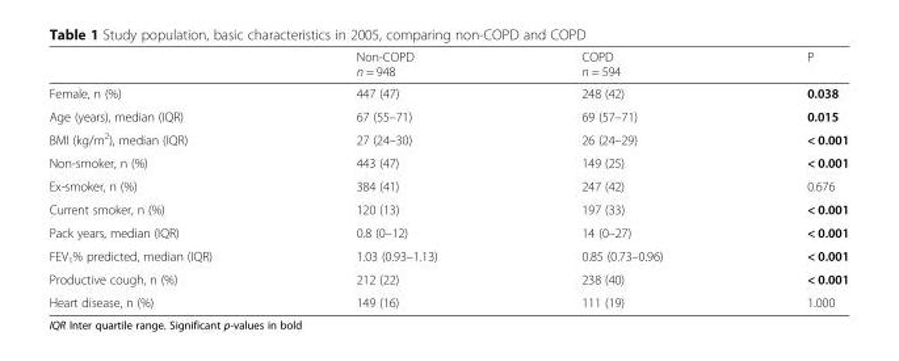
<table><thead><tr><td></td><td>Non-COPD n = 948</td><td>COPD n = 594</td><td>P</td></tr></thead><tbody><tr><td>Female, n (%)</td><td>447 (47)</td><td>248 (42)</td><td>0.038</td></tr><tr><td>Age (years), median (IQR)</td><td>67 (55–71)</td><td>69 (57–71)</td><td>0.015</td></tr><tr><td>BMI (kg/m<sup>2</sup>), median (IQR)</td><td>27 (24–30)</td><td>26 (24–29)</td><td>&lt; 0.001</td></tr><tr><td>Non-smoker, n (%)</td><td>443 (47)</td><td>149 (25)</td><td>&lt; 0.001</td></tr><tr><td>Ex-smoker, n (%)</td><td>384 (41)</td><td>247 (42)</td><td>0.676</td></tr><tr><td>Current smoker, n (%)</td><td>120 (13)</td><td>197 (33)</td><td>&lt; 0.001</td></tr><tr><td>Pack years, median (IQR)</td><td>0.8 (0–12)</td><td>14 (0–27)</td><td>&lt; 0.001</td></tr><tr><td>FEV<sub>1</sub>% predicted, median (IQR)</td><td>1.03 (0.93–1.13)</td><td>0.85 (0.73–0.96)</td><td>&lt; 0.001</td></tr><tr><td>Productive cough, n (%)</td><td>212 (22)</td><td>238 (40)</td><td>&lt; 0.001</td></tr><tr><td>Heart disease, n (%)</td><td>149 (16)</td><td>111 (19)</td><td>1.000</td></tr></tbody></table>